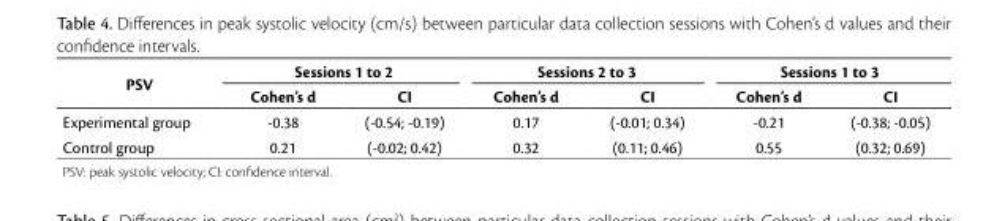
<table><thead><tr><td rowspan="2">PSV</td><td colspan="2">Sessions 1 to 2</td><td colspan="2">Sessions 2 to 3</td><td colspan="2">Sessions 1 to 3</td></tr><tr><td>Cohen’s d</td><td>CI</td><td>Cohen’s d</td><td>CI</td><td>Cohen’s d</td><td>CI</td></tr></thead><tbody><tr><td>Experimental group</td><td>-0.38</td><td>(-0.54; -0.19)</td><td>0.17</td><td>(-0.01; 0.34)</td><td>-0.21</td><td>(-0.38; -0.05)</td></tr><tr><td>Control group</td><td>0.21</td><td>(-0.02; 0.42)</td><td>0.32</td><td>(0.11; 0.46)</td><td>0.55</td><td>(0.32; 0.69)</td></tr></tbody></table>